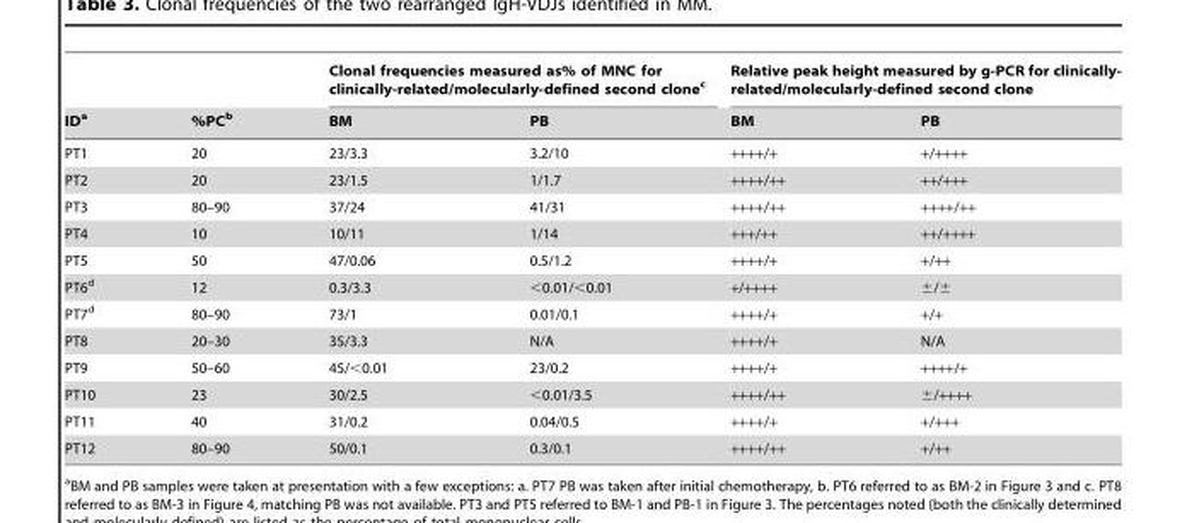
<table><thead><tr><td rowspan="2">ID<sup>a</sup></td><td rowspan="2">%PC<sup>b</sup></td><td colspan="2">Clonal frequencies measured as% of MNC for clinically-related/molecularly-defined second clone<sup>c</sup></td><td colspan="2">Relative peak height measured by g-PCR for clinically- related/molecularly-defined second clone</td></tr><tr><td>BM</td><td>PB</td><td>BM</td><td>PB</td></tr></thead><tbody><tr><td>PT1</td><td>20</td><td>23/3.3</td><td>3.2/10</td><td>++++/+</td><td>+/++++</td></tr><tr><td>PT2</td><td>20</td><td>23/1.5</td><td>1/1.7</td><td>++++/++</td><td>++/+++</td></tr><tr><td>PT3</td><td>80–90</td><td>37/24</td><td>41/31</td><td>++++/++</td><td>++++/++</td></tr><tr><td>PT4</td><td>10</td><td>10/11</td><td>1/14</td><td>+++/++</td><td>++/++++</td></tr><tr><td>PT5</td><td>50</td><td>47/0.06</td><td>0.5/1.2</td><td>++++/+</td><td>+/++</td></tr><tr><td>PT6<sup>d</sup></td><td>12</td><td>0.3/3.3</td><td>&lt;0.01/&lt;0.01</td><td>+/++++</td><td>±/±</td></tr><tr><td>PT7<sup>d</sup></td><td>80–90</td><td>73/1</td><td>0.01/0.1</td><td>++++/+</td><td>+/+</td></tr><tr><td>PT8</td><td>20–30</td><td>35/3.3</td><td>N/A</td><td>++++/+</td><td>N/A</td></tr><tr><td>PT9</td><td>50–60</td><td>45/&lt;0.01</td><td>23/0.2</td><td>++++/+</td><td>++++/+</td></tr><tr><td>PT10</td><td>23</td><td>30/2.5</td><td>&lt;0.01/3.5</td><td>++++/++</td><td>±/++++</td></tr><tr><td>PT11</td><td>40</td><td>31/0.2</td><td>0.04/0.5</td><td>++++/+</td><td>+/+++</td></tr><tr><td>PT12</td><td>80–90</td><td>50/0.1</td><td>0.3/0.1</td><td>++++/++</td><td>+/++</td></tr></tbody></table>